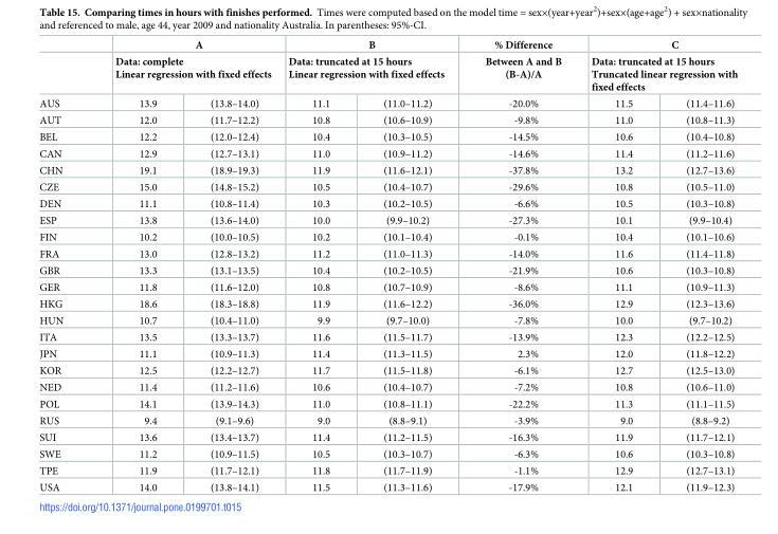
<table><thead><tr><td rowspan="3">AUS</td><td rowspan="2" colspan="2">A Data: complete Linear regression with fixed effects</td><td rowspan="2" colspan="2">B Data: truncated at 15 hours Linear regression with fixed effects</td><td rowspan="3">% Difference Between A and B (B-A)/A -20.0%</td><td rowspan="2" colspan="2">C Data: truncated at 15 hours Truncated linear regression with fixed effects</td></tr><tr></tr><tr><td>13.9</td><td>(13.8–14.0)</td><td>11.1</td><td>(11.0–11.2)</td><td>11.5</td><td>(11.4–11.6)</td></tr></thead><tbody><tr><td>AUT</td><td>12.0</td><td>(11.7–12.2)</td><td>10.8</td><td>(10.6–10.9)</td><td>-9.8%</td><td>11.0</td><td>(10.8–11.3)</td></tr><tr><td>BEL</td><td>12.2</td><td>(12.0–12.4)</td><td>10.4</td><td>(10.3–10.5)</td><td>-14.5%</td><td>10.6</td><td>(10.4–10.8)</td></tr><tr><td>CAN</td><td>12.9</td><td>(12.7–13.1)</td><td>11.0</td><td>(10.9–11.2)</td><td>-14.6%</td><td>11.4</td><td>(11.2–11.6)</td></tr><tr><td>CHN</td><td>19.1</td><td>(18.9–19.3)</td><td>11.9</td><td>(11.6–12.1)</td><td>-37.8%</td><td>13.2</td><td>(12.7–13.6)</td></tr><tr><td>CZE</td><td>15.0</td><td>(14.8–15.2)</td><td>10.5</td><td>(10.4–10.7)</td><td>-29.6%</td><td>10.8</td><td>(10.5–11.0)</td></tr><tr><td>DEN</td><td>11.1</td><td>(10.8–11.4)</td><td>10.3</td><td>(10.2–10.5)</td><td>-6.6%</td><td>10.5</td><td>(10.3–10.8)</td></tr><tr><td>ESP</td><td>13.8</td><td>(13.6–14.0)</td><td>10.0</td><td>(9.9–10.2)</td><td>-27.3%</td><td>10.1</td><td>(9.9–10.4)</td></tr><tr><td>FIN</td><td>10.2</td><td>(10.0–10.5)</td><td>10.2</td><td>(10.1–10.4)</td><td>-0.1%</td><td>10.4</td><td>(10.1–10.6)</td></tr><tr><td>FRA</td><td>13.0</td><td>(12.8–13.2)</td><td>11.2</td><td>(11.0–11.3)</td><td>-14.0%</td><td>11.6</td><td>(11.4–11.8)</td></tr><tr><td>GBR</td><td>13.3</td><td>(13.1–13.5)</td><td>10.4</td><td>(10.2–10.5)</td><td>-21.9%</td><td>10.6</td><td>(10.3–10.8)</td></tr><tr><td>GER</td><td>11.8</td><td>(11.6–12.0)</td><td>10.8</td><td>(10.7–10.9)</td><td>-8.6%</td><td>11.1</td><td>(10.9–11.3)</td></tr><tr><td>HKG</td><td>18.6</td><td>(18.3–18.8)</td><td>11.9</td><td>(11.6–12.2)</td><td>-36.0%</td><td>12.9</td><td>(12.3–13.6)</td></tr><tr><td>HUN</td><td>10.7</td><td>(10.4–11.0)</td><td>9.9</td><td>(9.7–10.0)</td><td>-7.8%</td><td>10.0</td><td>(9.7–10.2)</td></tr><tr><td>ITA</td><td>13.5</td><td>(13.3–13.7)</td><td>11.6</td><td>(11.5–11.7)</td><td>-13.9%</td><td>12.3</td><td>(12.2–12.5)</td></tr><tr><td>JPN</td><td>11.1</td><td>(10.9–11.3)</td><td>11.4</td><td>(11.3–11.5)</td><td>2.3%</td><td>12.0</td><td>(11.8–12.2)</td></tr><tr><td>KOR</td><td>12.5</td><td>(12.2–12.7)</td><td>11.7</td><td>(11.5–11.8)</td><td>-6.1%</td><td>12.7</td><td>(12.5–13.0)</td></tr><tr><td>NED</td><td>11.4</td><td>(11.2–11.6)</td><td>10.6</td><td>(10.4–10.7)</td><td>-7.2%</td><td>10.8</td><td>(10.6–11.0)</td></tr><tr><td>POL</td><td>14.1</td><td>(13.9–14.3)</td><td>11.0</td><td>(10.8–11.1)</td><td>-22.2%</td><td>11.3</td><td>(11.1–11.5)</td></tr><tr><td>RUS</td><td>9.4</td><td>(9.1–9.6)</td><td>9.0</td><td>(8.8–9.1)</td><td>-3.9%</td><td>9.0</td><td>(8.8–9.2)</td></tr><tr><td>SUI</td><td>13.6</td><td>(13.4–13.7)</td><td>11.4</td><td>(11.2–11.5)</td><td>-16.3%</td><td>11.9</td><td>(11.7–12.1)</td></tr><tr><td>SWE</td><td>11.2</td><td>(10.9–11.5)</td><td>10.5</td><td>(10.3–10.7)</td><td>-6.3%</td><td>10.6</td><td>(10.3–10.8)</td></tr><tr><td>TPE</td><td>11.9</td><td>(11.7–12.1)</td><td>11.8</td><td>(11.7–11.9)</td><td>-1.1%</td><td>12.9</td><td>(12.7–13.1)</td></tr><tr><td>USA</td><td>14.0</td><td>(13.8–14.1)</td><td>11.5</td><td>(11.3–11.6)</td><td>-17.9%</td><td>12.1</td><td>(11.9–12.3)</td></tr></tbody></table>